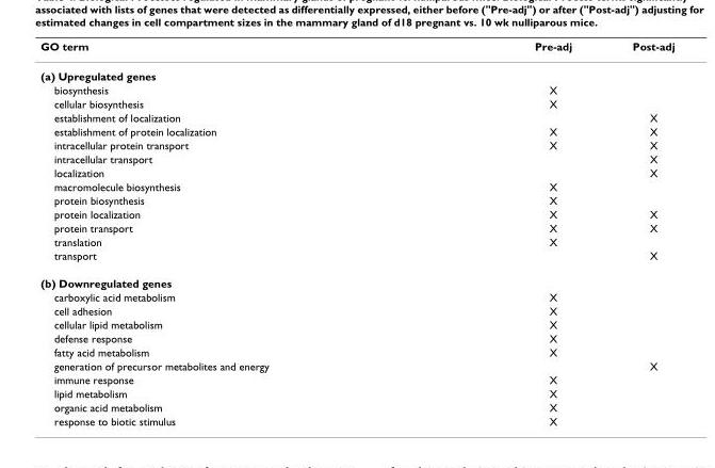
<table><thead><tr><td>GO term</td><td>Pre-adj</td><td>Post-adj</td></tr></thead><tbody><tr><td colspan="3">(a) Upregulated genes</td></tr><tr><td>biosynthesis</td><td>X</td><td></td></tr><tr><td>cellular biosynthesis</td><td>X</td><td></td></tr><tr><td>establishment of localization</td><td></td><td>X</td></tr><tr><td>establishment of protein localization</td><td>X</td><td>X</td></tr><tr><td>intracellular protein transport</td><td>X</td><td>X</td></tr><tr><td>intracellular transport</td><td></td><td>X</td></tr><tr><td>localization</td><td></td><td>X</td></tr><tr><td>macromolecule biosynthesis</td><td>X</td><td></td></tr><tr><td>protein biosynthesis</td><td>X</td><td></td></tr><tr><td>protein localization</td><td>X</td><td>X</td></tr><tr><td>protein transport</td><td>X</td><td>X</td></tr><tr><td>translation</td><td>X</td><td></td></tr><tr><td>transport</td><td></td><td>X</td></tr><tr><td colspan="3">(b) Downregulated genes</td></tr><tr><td>carboxylic acid metabolism</td><td>X</td><td></td></tr><tr><td>cell adhesion</td><td>X</td><td></td></tr><tr><td>cellular lipid metabolism</td><td>X</td><td></td></tr><tr><td>defense response</td><td>X</td><td></td></tr><tr><td>fatty acid metabolism</td><td>X</td><td></td></tr><tr><td>generation of precursor metabolites and energy</td><td></td><td>X</td></tr><tr><td>immune response</td><td>X</td><td></td></tr><tr><td>lipid metabolism</td><td>X</td><td></td></tr><tr><td>organic acid metabolism</td><td>X</td><td></td></tr><tr><td>response to biotic stimulus</td><td>X</td><td></td></tr></tbody></table>